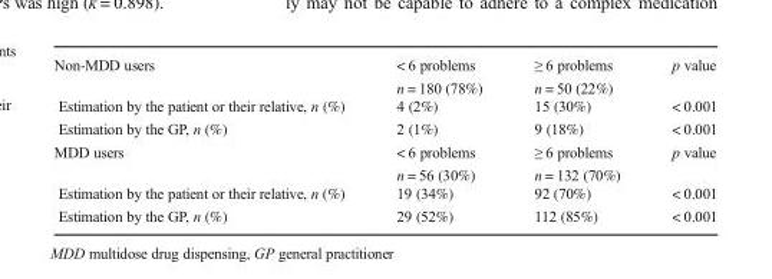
<table><tbody><tr><td>Non-MDD users</td><td>&lt; 6 problems n = 180 (78%)</td><td>≥ 6 problems n = 50 (22%)</td><td>p value</td></tr><tr><td>Estimation by the patient or their relative, n (%)</td><td>4 (2%)</td><td>15 (30%)</td><td>&lt; 0.001</td></tr><tr><td>Estimation by the GP, n (%)</td><td>2 (1%)</td><td>9 (18%)</td><td>&lt; 0.001</td></tr><tr><td>MDD users</td><td>&lt; 6 problems n = 56 (30%)</td><td>≥ 6 problems n = 132 (70%)</td><td>p value</td></tr><tr><td>Estimation by the patient or their relative, n (%)</td><td>19 (34%)</td><td>92 (70%)</td><td>&lt; 0.001</td></tr><tr><td>Estimation by the GP, n (%)</td><td>29 (52%)</td><td>112 (85%)</td><td>&lt; 0.001</td></tr></tbody></table>